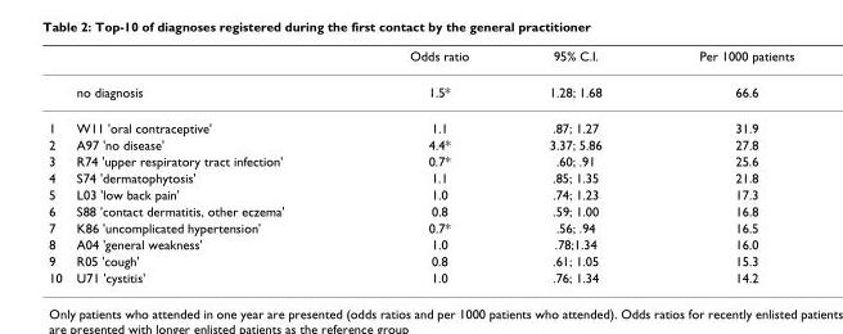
<table><thead><tr><td></td><td></td><td>Odds ratio</td><td>95% C.I.</td><td>Per 1000 patients</td></tr></thead><tbody><tr><td></td><td>no diagnosis</td><td>1.5*</td><td>1.28; 1.68</td><td>66.6</td></tr><tr><td>1</td><td>W11 &#x27;oral contraceptive&#x27;</td><td>1.1</td><td>.87; 1.27</td><td>31.9</td></tr><tr><td>2</td><td>A97 &#x27;no disease&#x27;</td><td>4.4*</td><td>3.37; 5.86</td><td>27.8</td></tr><tr><td>3</td><td>R74 &#x27;upper respiratory tract infection&#x27;</td><td>0.7*</td><td>.60; .91</td><td>25.6</td></tr><tr><td>4</td><td>S74 &#x27;dermatophytosis&#x27;</td><td>1.1</td><td>.85; 1.35</td><td>21.8</td></tr><tr><td>5</td><td>L03 &#x27;low back pain&#x27;</td><td>1.0</td><td>.74; 1.23</td><td>17.3</td></tr><tr><td>6</td><td>S88 &#x27;contact dermatitis, other eczema&#x27;</td><td>0.8</td><td>.59; 1.00</td><td>16.8</td></tr><tr><td>7</td><td>K86 &#x27;uncomplicated hypertension&#x27;</td><td>0.7*</td><td>.56; .94</td><td>16.5</td></tr><tr><td>8</td><td>A04 &#x27;general weakness&#x27;</td><td>1.0</td><td>.78;1.34</td><td>16.0</td></tr><tr><td>9</td><td>R05 &#x27;cough&#x27;</td><td>0.8</td><td>.61; 1.05</td><td>15.3</td></tr><tr><td>10</td><td>U71 &#x27;cystitis&#x27;</td><td>1.0</td><td>.76; 1.34</td><td>14.2</td></tr></tbody></table>